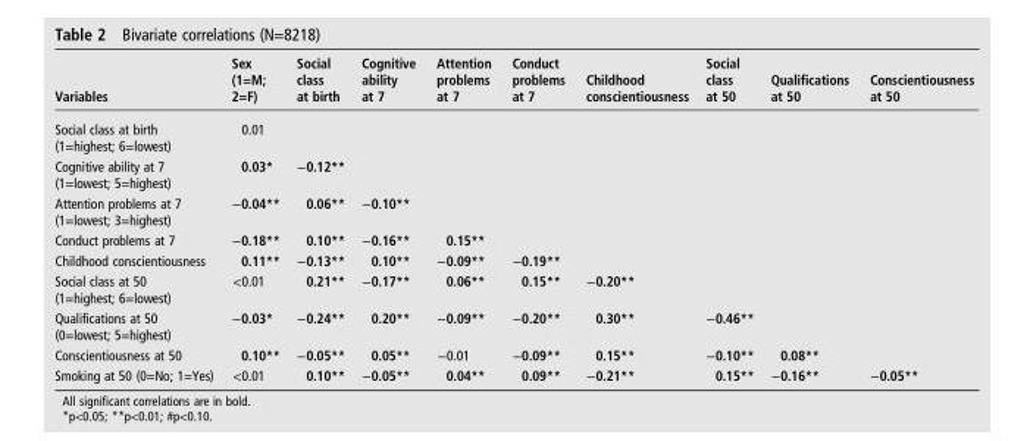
<table><thead><tr><td>Variables</td><td>Sex (1=M; 2=F)</td><td>Social class at birth</td><td>Cognitive ability at 7</td><td>Attention problems at 7</td><td>Conduct problems at 7</td><td>Childhood conscientiousness</td><td>Social class at 50</td><td>Qualifications at 50</td><td>Conscientiousness at 50</td></tr></thead><tbody><tr><td>Social class at birth (1=highest; 6=lowest)</td><td>0.01</td><td></td><td></td><td></td><td></td><td></td><td></td><td></td><td></td></tr><tr><td>Cognitive ability at 7 (1=lowest; 5=highest)</td><td>0.03*</td><td>−0.12**</td><td></td><td></td><td></td><td></td><td></td><td></td><td></td></tr><tr><td>Attention problems at 7 (1=lowest; 3=highest)</td><td>−0.04**</td><td>0.06**</td><td>−0.10**</td><td></td><td></td><td></td><td></td><td></td><td></td></tr><tr><td>Conduct problems at 7</td><td>−0.18**</td><td>0.10**</td><td>−0.16**</td><td>0.15**</td><td></td><td></td><td></td><td></td><td></td></tr><tr><td>Childhood conscientiousness</td><td>0.11**</td><td>−0.13**</td><td>0.10**</td><td>−0.09**</td><td>−0.19**</td><td></td><td></td><td></td><td></td></tr><tr><td>Social class at 50 (1=highest; 6=lowest)</td><td>&lt;0.01</td><td>0.21**</td><td>−0.17**</td><td>0.06**</td><td>0.15**</td><td>−0.20**</td><td></td><td></td><td></td></tr><tr><td>Qualifications at 50 (0=lowest; 5=highest)</td><td>−0.03*</td><td>−0.24**</td><td>0.20**</td><td>−0.09**</td><td>−0.20**</td><td>0.30**</td><td>−0.46**</td><td></td><td></td></tr><tr><td>Conscientiousness at 50</td><td>0.10**</td><td>−0.05**</td><td>0.05**</td><td>−0.01</td><td>−0.09**</td><td>0.15**</td><td>−0.10**</td><td>0.08**</td><td></td></tr><tr><td>Smoking at 50 (0=No; 1=Yes)</td><td>&lt;0.01</td><td>0.10**</td><td>−0.05**</td><td>0.04**</td><td>0.09**</td><td>−0.21**</td><td>0.15**</td><td>−0.16**</td><td>−0.05**</td></tr></tbody></table>